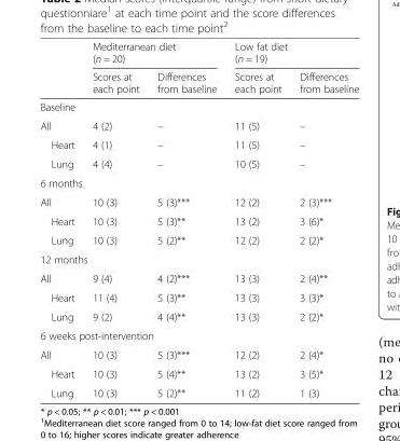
<table><thead><tr><td rowspan="2"></td><td colspan="2">Mediterranean diet (n = 20)</td><td colspan="2">Low fat diet (n = 19)</td></tr><tr><td>Scores at each point</td><td>Differences from baseline</td><td>Scores at each point</td><td>Differences from baseline</td></tr></thead><tbody><tr><td colspan="5">Baseline</td></tr><tr><td>All</td><td>4 (2)</td><td>–</td><td>11 (5)</td><td>–</td></tr><tr><td>Heart</td><td>4 (1)</td><td>–</td><td>11 (5)</td><td>–</td></tr><tr><td>Lung</td><td>4 (4)</td><td>–</td><td>10 (5)</td><td>–</td></tr><tr><td colspan="5">6 months</td></tr><tr><td>All</td><td>10 (3)</td><td>5 (3)***</td><td>12 (2)</td><td>2 (3)***</td></tr><tr><td>Heart</td><td>10 (3)</td><td>5 (3)**</td><td>13 (2)</td><td>3 (6)*</td></tr><tr><td>Lung</td><td>10 (3)</td><td>5 (2)**</td><td>12 (2)</td><td>2 (2)*</td></tr><tr><td colspan="5">12 months</td></tr><tr><td>All</td><td>9 (4)</td><td>4 (2)***</td><td>13 (3)</td><td>2 (4)**</td></tr><tr><td>Heart</td><td>11 (4)</td><td>5 (3)**</td><td>13 (3)</td><td>3 (3)*</td></tr><tr><td>Lung</td><td>9 (2)</td><td>4 (4)**</td><td>13 (3)</td><td>2 (2)*</td></tr><tr><td colspan="5">6 weeks post-intervention</td></tr><tr><td>All</td><td>10 (3)</td><td>5 (3)***</td><td>12 (2)</td><td>2 (4)*</td></tr><tr><td>Heart</td><td>10 (3)</td><td>5 (4)**</td><td>13 (2)</td><td>3 (5)*</td></tr><tr><td>Lung</td><td>10 (3)</td><td>5 (2)**</td><td>11 (2)</td><td>1 (3)</td></tr></tbody></table>